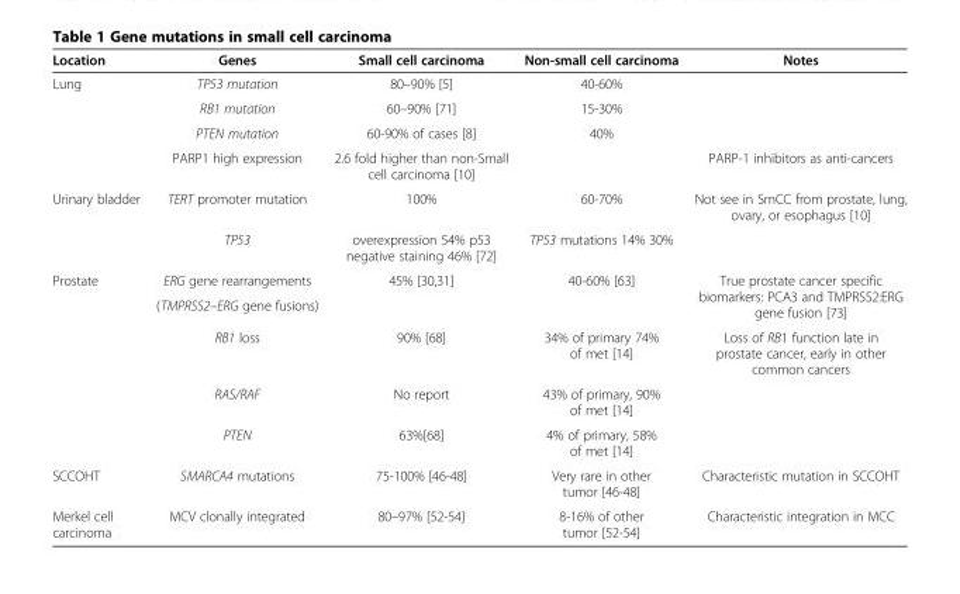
<table><thead><tr><td>Location</td><td>Genes</td><td>Small cell carcinoma</td><td>Non-small cell carcinoma</td><td>Notes</td></tr></thead><tbody><tr><td rowspan="4">Lung</td><td>TP53 mutation</td><td>80–90% [5]</td><td>40-60%</td><td></td></tr><tr><td>RB1 mutation</td><td>60–90% [71]</td><td>15-30%</td><td></td></tr><tr><td>PTEN mutation</td><td>60-90% of cases [8]</td><td>40%</td><td></td></tr><tr><td>PARP1 high expression</td><td>2.6 fold higher than non-Small cell carcinoma [10]</td><td></td><td>PARP-1 inhibitors as anti-cancers</td></tr><tr><td rowspan="2">Urinary bladder</td><td>TERT promoter mutation</td><td>100%</td><td>60-70%</td><td>Not see in SmCC from prostate, lung, ovary, or esophagus [10]</td></tr><tr><td>TP53</td><td>overexpression 54% p53 negative staining 46% [72]</td><td>TP53 mutations 14% 30%</td><td></td></tr><tr><td rowspan="5">Prostate</td><td>ERG gene rearrangements</td><td rowspan="2">45% [30,31]</td><td rowspan="2">40-60% [63]</td><td rowspan="2">True prostate cancer specific biomarkers: PCA3 and TMPRSS2:ERG gene fusion [73]</td></tr><tr><td>(TMPRSS2–ERG gene fusions)</td></tr><tr><td>RB1 loss</td><td>90% [68]</td><td>34% of primary 74% of met [14]</td><td>Loss of RB1 function late in prostate cancer, early in other common cancers</td></tr><tr><td>RAS/RAF</td><td>No report</td><td>43% of primary, 90% of met [14]</td><td></td></tr><tr><td>PTEN</td><td>63%[68]</td><td>4% of primary, 58% of met [14]</td><td></td></tr><tr><td>SCCOHT</td><td>SMARCA4 mutations</td><td>75-100% [46-48]</td><td>Very rare in other tumor [46-48]</td><td>Characteristic mutation in SCCOHT</td></tr><tr><td>Merkel cell carcinoma</td><td>MCV clonally integrated</td><td>80–97% [52-54]</td><td>8-16% of other tumor [52-54]</td><td>Characteristic integration in MCC</td></tr></tbody></table>